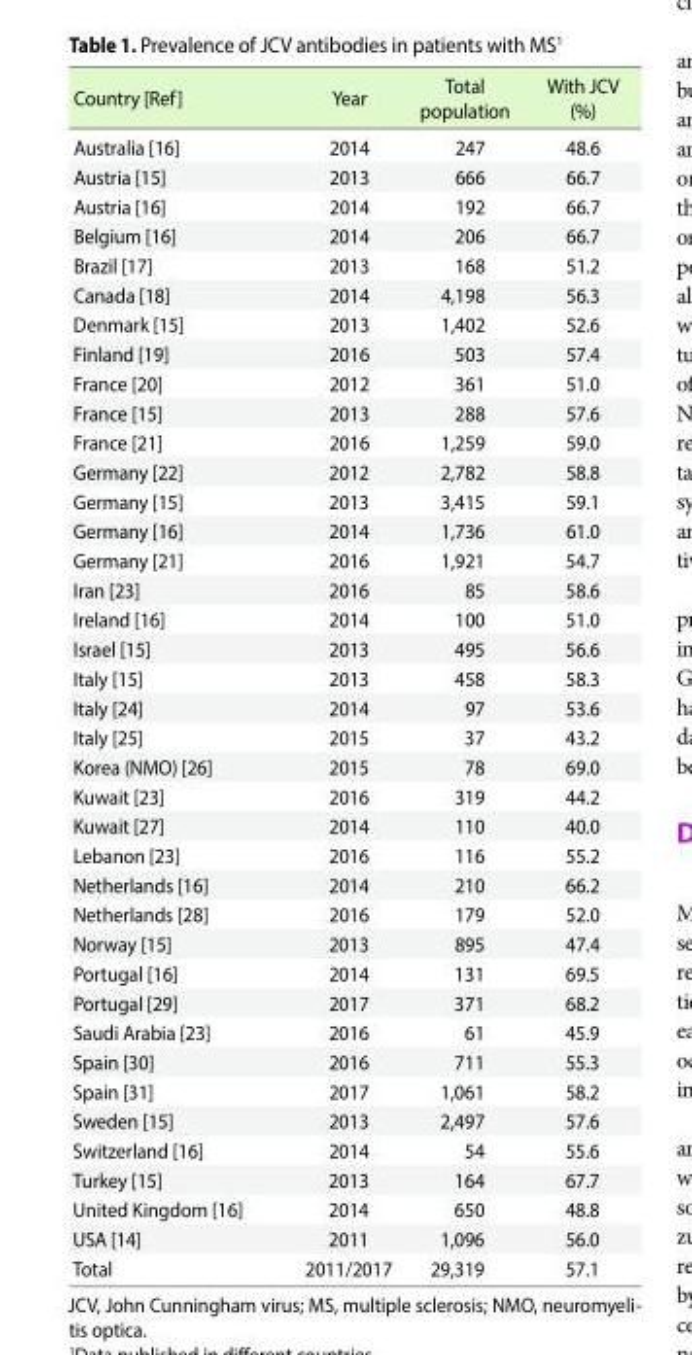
<table><thead><tr><td>Country [Ref]</td><td>Year</td><td>Total population</td><td>With JCV (%)</td></tr></thead><tbody><tr><td>Australia [16]</td><td>2014</td><td>247</td><td>48.6</td></tr><tr><td>Austria [15]</td><td>2013</td><td>666</td><td>66.7</td></tr><tr><td>Austria [16]</td><td>2014</td><td>192</td><td>66.7</td></tr><tr><td>Belgium [16]</td><td>2014</td><td>206</td><td>66.7</td></tr><tr><td>Brazil [17]</td><td>2013</td><td>168</td><td>51.2</td></tr><tr><td>Canada [18]</td><td>2014</td><td>4,198</td><td>56.3</td></tr><tr><td>Denmark [15]</td><td>2013</td><td>1,402</td><td>52.6</td></tr><tr><td>Finland [19]</td><td>2016</td><td>503</td><td>57.4</td></tr><tr><td>France [20]</td><td>2012</td><td>361</td><td>51.0</td></tr><tr><td>France [15]</td><td>2013</td><td>288</td><td>57.6</td></tr><tr><td>France [21]</td><td>2016</td><td>1,259</td><td>59.0</td></tr><tr><td>Germany [22]</td><td>2012</td><td>2,782</td><td>58.8</td></tr><tr><td>Germany [15]</td><td>2013</td><td>3,415</td><td>59.1</td></tr><tr><td>Germany [16]</td><td>2014</td><td>1,736</td><td>61.0</td></tr><tr><td>Germany [21]</td><td>2016</td><td>1,921</td><td>54.7</td></tr><tr><td>Iran [23]</td><td>2016</td><td>85</td><td>58.6</td></tr><tr><td>Ireland [16]</td><td>2014</td><td>100</td><td>51.0</td></tr><tr><td>Israel [15]</td><td>2013</td><td>495</td><td>56.6</td></tr><tr><td>Italy [15]</td><td>2013</td><td>458</td><td>58.3</td></tr><tr><td>Italy [24]</td><td>2014</td><td>97</td><td>53.6</td></tr><tr><td>Italy [25]</td><td>2015</td><td>37</td><td>43.2</td></tr><tr><td>Korea (NMO) [26]</td><td>2015</td><td>78</td><td>69.0</td></tr><tr><td>Kuwait [23]</td><td>2016</td><td>319</td><td>44.2</td></tr><tr><td>Kuwait [27]</td><td>2014</td><td>110</td><td>40.0</td></tr><tr><td>Lebanon [23]</td><td>2016</td><td>116</td><td>55.2</td></tr><tr><td>Netherlands [16]</td><td>2014</td><td>210</td><td>66.2</td></tr><tr><td>Netherlands [28]</td><td>2016</td><td>179</td><td>52.0</td></tr><tr><td>Norway [15]</td><td>2013</td><td>895</td><td>47.4</td></tr><tr><td>Portugal [16]</td><td>2014</td><td>131</td><td>69.5</td></tr><tr><td>Portugal [29]</td><td>2017</td><td>371</td><td>68.2</td></tr><tr><td>Saudi Arabia [23]</td><td>2016</td><td>61</td><td>45.9</td></tr><tr><td>Spain [30]</td><td>2016</td><td>711</td><td>55.3</td></tr><tr><td>Spain [31]</td><td>2017</td><td>1,061</td><td>58.2</td></tr><tr><td>Sweden [15]</td><td>2013</td><td>2,497</td><td>57.6</td></tr><tr><td>Switzerland [16]</td><td>2014</td><td>54</td><td>55.6</td></tr><tr><td>Turkey [15]</td><td>2013</td><td>164</td><td>67.7</td></tr><tr><td>United Kingdom [16]</td><td>2014</td><td>650</td><td>48.8</td></tr><tr><td>USA [14]</td><td>2011</td><td>1,096</td><td>56.0</td></tr><tr><td>Total</td><td>2011/2017</td><td>29,319</td><td>57.1</td></tr></tbody></table>